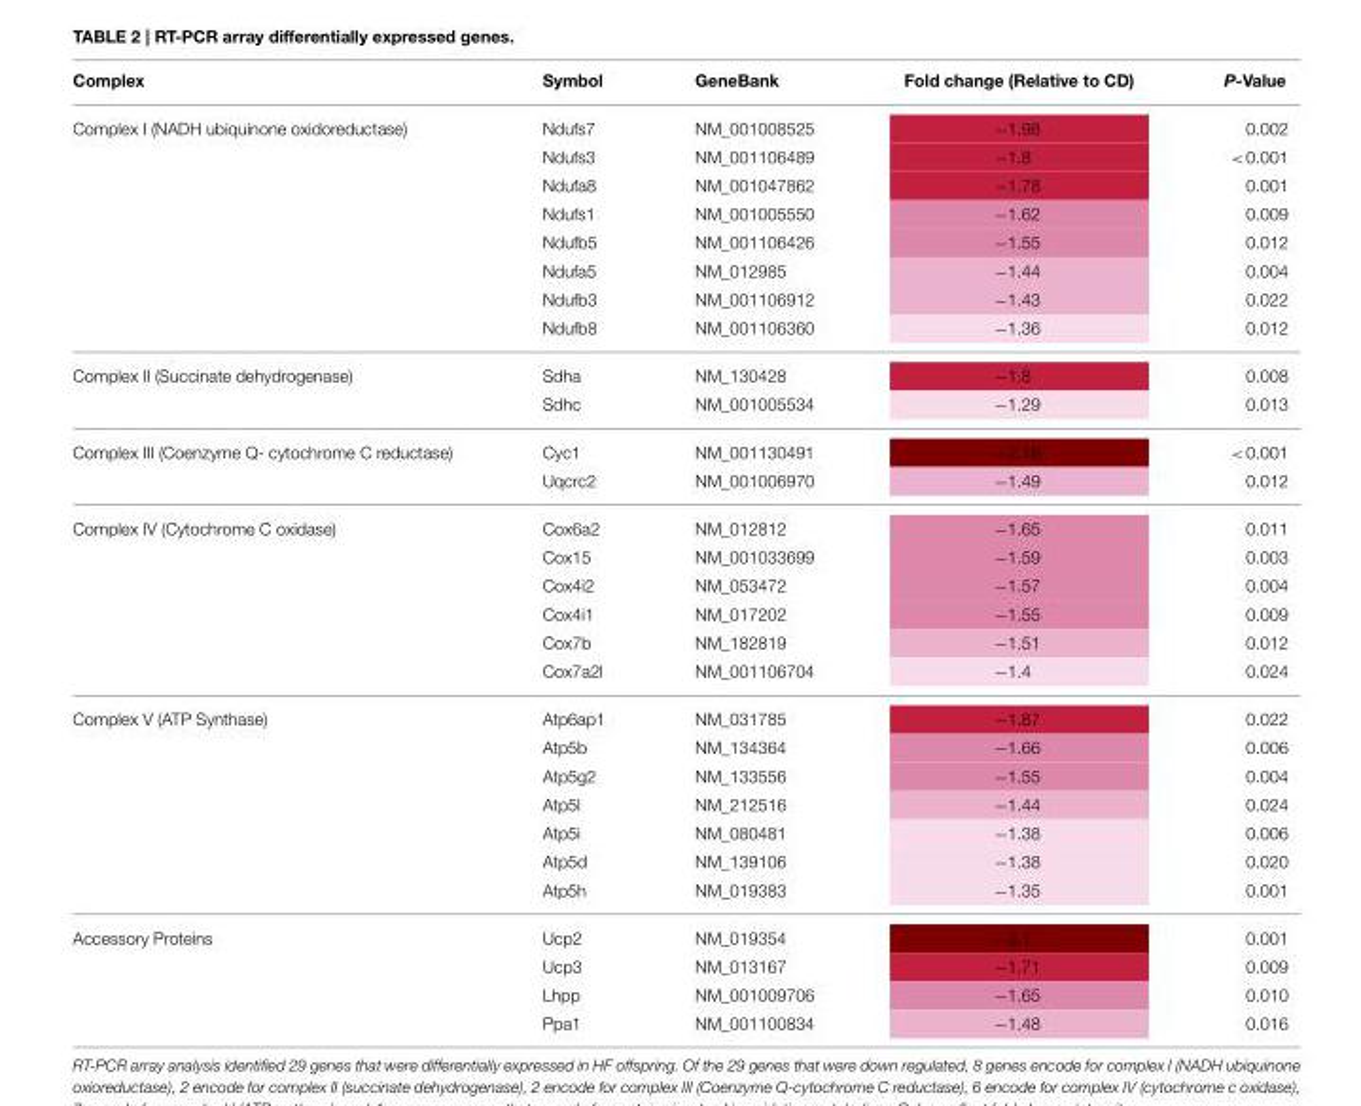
<table><thead><tr><td>Complex</td><td>Symbol</td><td>GeneBank</td><td>Fold change (Relative to CD)</td><td>P-Value</td></tr></thead><tbody><tr><td rowspan="8">Complex I (NADH ubiquinone oxidoreductase)</td><td>Ndufs7</td><td>NM_001008525</td><td>−1.98</td><td>0.002</td></tr><tr><td>Ndufs3</td><td>NM_001106489</td><td>−1.8</td><td>&lt;0.001</td></tr><tr><td>Ndufa8</td><td>NM_001047862</td><td>−1.78</td><td>0.001</td></tr><tr><td>Ndufs1</td><td>NM_001005550</td><td>−1.62</td><td>0.009</td></tr><tr><td>Ndufb5</td><td>NM_001106426</td><td>−1.55</td><td>0.012</td></tr><tr><td>Ndufa5</td><td>NM_012985</td><td>−1.44</td><td>0.004</td></tr><tr><td>Ndufb3</td><td>NM_001106912</td><td>−1.43</td><td>0.022</td></tr><tr><td>Ndufb8</td><td>NM_001106360</td><td>−1.36</td><td>0.012</td></tr><tr><td rowspan="2">Complex II (Succinate dehydrogenase)</td><td>Sdha</td><td>NM_130428</td><td>−1.8</td><td>0.008</td></tr><tr><td>Sdhc</td><td>NM_001005534</td><td>−1.29</td><td>0.013</td></tr><tr><td rowspan="2">Complex III (Coenzyme Q- cytochrome C reductase)</td><td>Cyc1</td><td>NM_001130491</td><td>−2.16</td><td>&lt;0.001</td></tr><tr><td>Uqcrc2</td><td>NM_001006970</td><td>−1.49</td><td>0.012</td></tr><tr><td rowspan="6">Complex IV (Cytochrome C oxidase)</td><td>Cox6a2</td><td>NM_012812</td><td>−1.65</td><td>0.011</td></tr><tr><td>Cox15</td><td>NM_001033699</td><td>−1.59</td><td>0.003</td></tr><tr><td>Cox4i2</td><td>NM_053472</td><td>−1.57</td><td>0.004</td></tr><tr><td>Cox4i1</td><td>NM_017202</td><td>−1.55</td><td>0.009</td></tr><tr><td>Cox7b</td><td>NM_182819</td><td>−1.51</td><td>0.012</td></tr><tr><td>Cox7a2l</td><td>NM_001106704</td><td>−1.4</td><td>0.024</td></tr><tr><td rowspan="7">Complex V (ATP Synthase)</td><td>Atp6ap1</td><td>NM_031785</td><td>−1.87</td><td>0.022</td></tr><tr><td>Atp5b</td><td>NM_134364</td><td>−1.66</td><td>0.006</td></tr><tr><td>Atp5g2</td><td>NM_133556</td><td>−1.55</td><td>0.004</td></tr><tr><td>Atp5l</td><td>NM_212516</td><td>−1.44</td><td>0.024</td></tr><tr><td>Atp5i</td><td>NM_080481</td><td>−1.38</td><td>0.006</td></tr><tr><td>Atp5d</td><td>NM_139106</td><td>−1.38</td><td>0.020</td></tr><tr><td>Atp5h</td><td>NM_019383</td><td>−1.35</td><td>0.001</td></tr><tr><td rowspan="4">Accessory Proteins</td><td>Ucp2</td><td>NM_019354</td><td>−3.1</td><td>0.001</td></tr><tr><td>Ucp3</td><td>NM_013167</td><td>−1.71</td><td>0.009</td></tr><tr><td>Lhpp</td><td>NM_001009706</td><td>−1.65</td><td>0.010</td></tr><tr><td>Ppa1</td><td>NM_001100834</td><td>−1.48</td><td>0.016</td></tr></tbody></table>